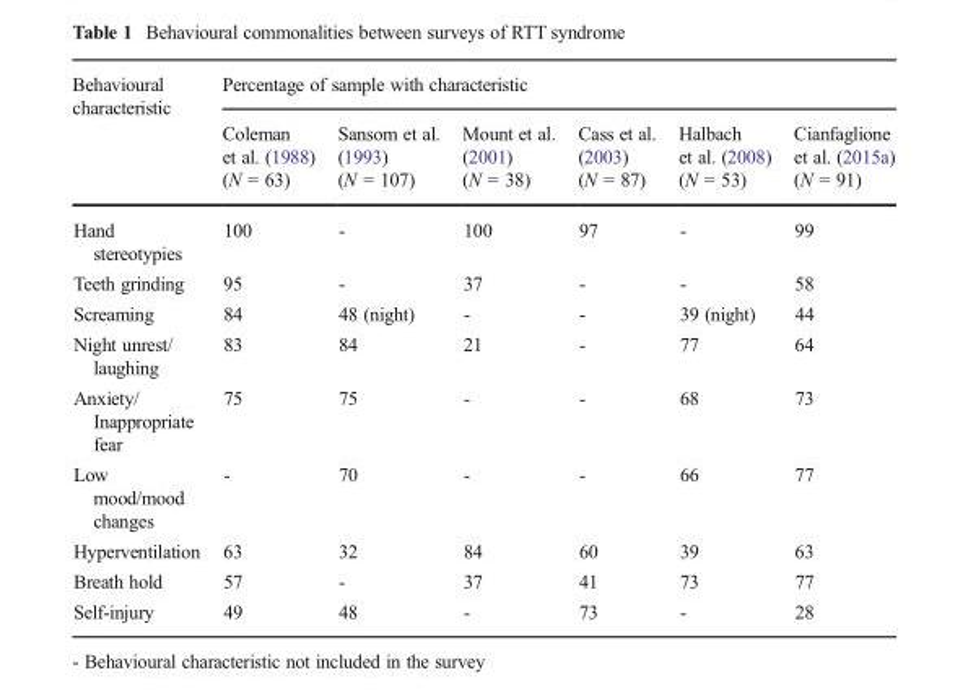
<table><thead><tr><td rowspan="2">Behavioural characteristic</td><td colspan="6">Percentage of sample with characteristic</td></tr><tr><td>Coleman et al. (1988) (N = 63)</td><td>Sansom et al. (1993) (N = 107)</td><td>Mount et al. (2001) (N = 38)</td><td>Cass et al. (2003) (N = 87)</td><td>Halbach et al. (2008) (N = 53)</td><td>Cianfaglione et al. (2015a) (N = 91)</td></tr></thead><tbody><tr><td>Hand stereotypies</td><td>100</td><td>-</td><td>100</td><td>97</td><td>-</td><td>99</td></tr><tr><td>Teeth grinding</td><td>95</td><td>-</td><td>37</td><td>-</td><td>-</td><td>58</td></tr><tr><td>Screaming</td><td>84</td><td>48 (night)</td><td>-</td><td>-</td><td>39 (night)</td><td>44</td></tr><tr><td>Night unrest/ laughing</td><td>83</td><td>84</td><td>21</td><td>-</td><td>77</td><td>64</td></tr><tr><td>Anxiety/ Inappropriate fear</td><td>75</td><td>75</td><td>-</td><td>-</td><td>68</td><td>73</td></tr><tr><td>Low mood/mood changes</td><td>-</td><td>70</td><td>-</td><td>-</td><td>66</td><td>77</td></tr><tr><td>Hyperventilation</td><td>63</td><td>32</td><td>84</td><td>60</td><td>39</td><td>63</td></tr><tr><td>Breath hold</td><td>57</td><td>-</td><td>37</td><td>41</td><td>73</td><td>77</td></tr><tr><td>Self-injury</td><td>49</td><td>48</td><td>-</td><td>73</td><td>-</td><td>28</td></tr></tbody></table>